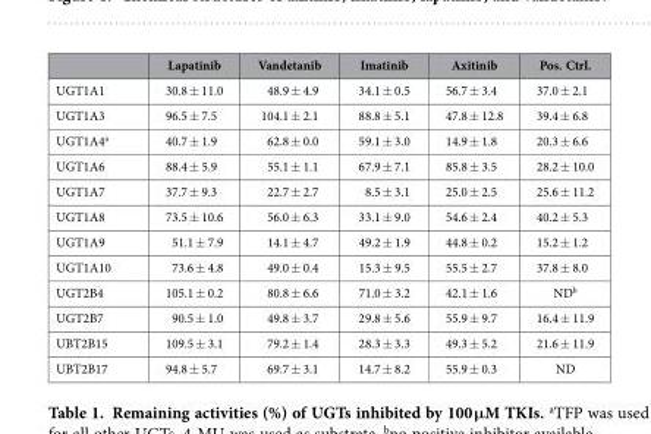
<table><thead><tr><td></td><td>Lapatinib</td><td>Vandetanib</td><td>Imatinib</td><td>Axitinib</td><td>Pos. Ctrl.</td></tr></thead><tbody><tr><td>UGT1A1</td><td>30.8 ± 11.0</td><td>48.9 ± 4.9</td><td>34.1 ± 0.5</td><td>56.7 ± 3.4</td><td>37.0 ± 2.1</td></tr><tr><td>UGT1A3</td><td>96.5 ± 7.5</td><td>104.1 ± 2.1</td><td>88.8 ± 5.1</td><td>47.8 ± 12.8</td><td>39.4 ± 6.8</td></tr><tr><td>UGT1A4<sup>a</sup></td><td>40.7 ± 1.9</td><td>62.8 ± 0.0</td><td>59.1 ± 3.0</td><td>14.9 ± 1.8</td><td>20.3 ± 6.6</td></tr><tr><td>UGT1A6</td><td>88.4 ± 5.9</td><td>55.1 ± 1.1</td><td>67.9 ± 7.1</td><td>85.8 ± 3.5</td><td>28.2 ± 10.0</td></tr><tr><td>UGT1A7</td><td>37.7 ± 9.3</td><td>22.7 ± 2.7</td><td>8.5 ± 3.1</td><td>25.0 ± 2.5</td><td>25.6 ± 11.2</td></tr><tr><td>UGT1A8</td><td>73.5 ± 10.6</td><td>56.0 ± 6.3</td><td>33.1 ± 9.0</td><td>54.6 ± 2.4</td><td>40.2 ± 5.3</td></tr><tr><td>UGT1A9</td><td>51.1 ± 7.9</td><td>14.1 ± 4.7</td><td>49.2 ± 1.9</td><td>44.8 ± 0.2</td><td>15.2 ± 1.2</td></tr><tr><td>UGT1A10</td><td>73.6 ± 4.8</td><td>49.0 ± 0.4</td><td>15.3 ± 9.5</td><td>55.5 ± 2.7</td><td>37.8 ± 8.0</td></tr><tr><td>UGT2B4</td><td>105.1 ± 0.2</td><td>80.8 ± 6.6</td><td>71.0 ± 3.2</td><td>42.1 ± 1.6</td><td>ND<sup>b</sup></td></tr><tr><td>UGT2B7</td><td>90.5 ± 1.0</td><td>49.8 ± 3.7</td><td>29.8 ± 5.6</td><td>55.9 ± 9.7</td><td>16.4 ± 11.9</td></tr><tr><td>UBT2B15</td><td>109.5 ± 3.1</td><td>79.2 ± 1.4</td><td>28.3 ± 3.3</td><td>49.3 ± 5.2</td><td>21.6 ± 11.9</td></tr><tr><td>UBT2B17</td><td>94.8 ± 5.7</td><td>69.7 ± 3.1</td><td>14.7 ± 8.2</td><td>55.9 ± 0.3</td><td>ND</td></tr></tbody></table>